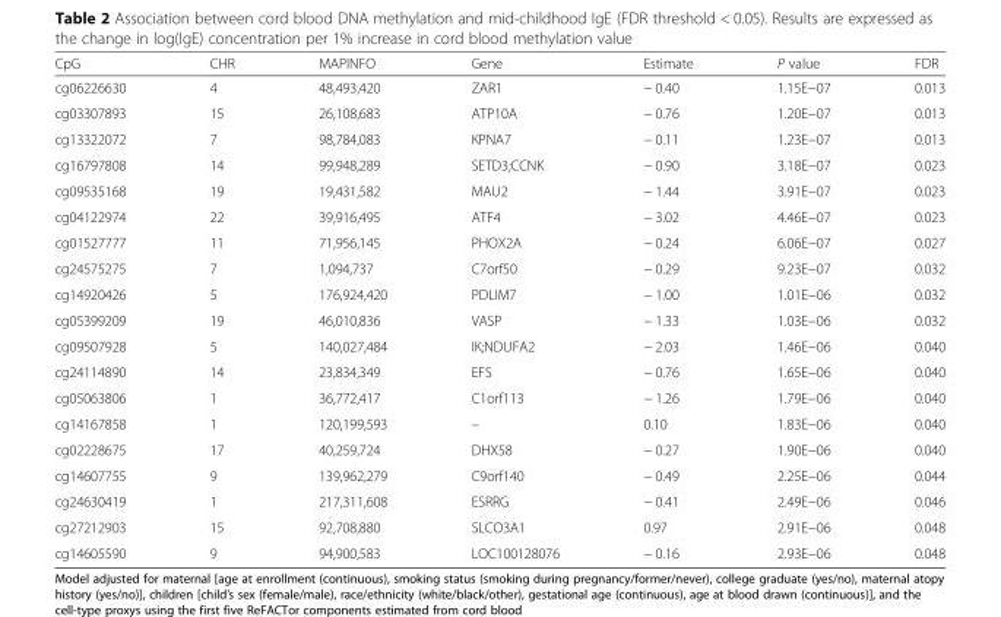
<table><thead><tr><td>CpG</td><td>CHR</td><td>MAPINFO</td><td>Gene</td><td>Estimate</td><td>P value</td><td>FDR</td></tr></thead><tbody><tr><td>cg06226630</td><td>4</td><td>48,493,420</td><td>ZAR1</td><td>− 0.40</td><td>1.15E−07</td><td>0.013</td></tr><tr><td>cg03307893</td><td>15</td><td>26,108,683</td><td>ATP10A</td><td>− 0.76</td><td>1.20E−07</td><td>0.013</td></tr><tr><td>cg13322072</td><td>7</td><td>98,784,083</td><td>KPNA7</td><td>− 0.11</td><td>1.23E−07</td><td>0.013</td></tr><tr><td>cg16797808</td><td>14</td><td>99,948,289</td><td>SETD3;CCNK</td><td>− 0.90</td><td>3.18E−07</td><td>0.023</td></tr><tr><td>cg09535168</td><td>19</td><td>19,431,582</td><td>MAU2</td><td>− 1.44</td><td>3.91E−07</td><td>0.023</td></tr><tr><td>cg04122974</td><td>22</td><td>39,916,495</td><td>ATF4</td><td>− 3.02</td><td>4.46E−07</td><td>0.023</td></tr><tr><td>cg01527777</td><td>11</td><td>71,956,145</td><td>PHOX2A</td><td>− 0.24</td><td>6.06E−07</td><td>0.027</td></tr><tr><td>cg24575275</td><td>7</td><td>1,094,737</td><td>C7orf50</td><td>− 0.29</td><td>9.23E−07</td><td>0.032</td></tr><tr><td>cg14920426</td><td>5</td><td>176,924,420</td><td>PDLIM7</td><td>− 1.00</td><td>1.01E−06</td><td>0.032</td></tr><tr><td>cg05399209</td><td>19</td><td>46,010,836</td><td>VASP</td><td>− 1.33</td><td>1.03E−06</td><td>0.032</td></tr><tr><td>cg09507928</td><td>5</td><td>140,027,484</td><td>IK;NDUFA2</td><td>− 2.03</td><td>1.46E−06</td><td>0.040</td></tr><tr><td>cg24114890</td><td>14</td><td>23,834,349</td><td>EFS</td><td>− 0.76</td><td>1.65E−06</td><td>0.040</td></tr><tr><td>cg05063806</td><td>1</td><td>36,772,417</td><td>C1orf113</td><td>− 1.26</td><td>1.79E−06</td><td>0.040</td></tr><tr><td>cg14167858</td><td>1</td><td>120,199,593</td><td>–</td><td>0.10</td><td>1.83E−06</td><td>0.040</td></tr><tr><td>cg02228675</td><td>17</td><td>40,259,724</td><td>DHX58</td><td>− 0.27</td><td>1.90E−06</td><td>0.040</td></tr><tr><td>cg14607755</td><td>9</td><td>139,962,279</td><td>C9orf140</td><td>− 0.49</td><td>2.25E−06</td><td>0.044</td></tr><tr><td>cg24630419</td><td>1</td><td>217,311,608</td><td>ESRRG</td><td>− 0.41</td><td>2.49E−06</td><td>0.046</td></tr><tr><td>cg27212903</td><td>15</td><td>92,708,880</td><td>SLCO3A1</td><td>0.97</td><td>2.91E−06</td><td>0.048</td></tr><tr><td>cg14605590</td><td>9</td><td>94,900,583</td><td>LOC100128076</td><td>− 0.16</td><td>2.93E−06</td><td>0.048</td></tr></tbody></table>